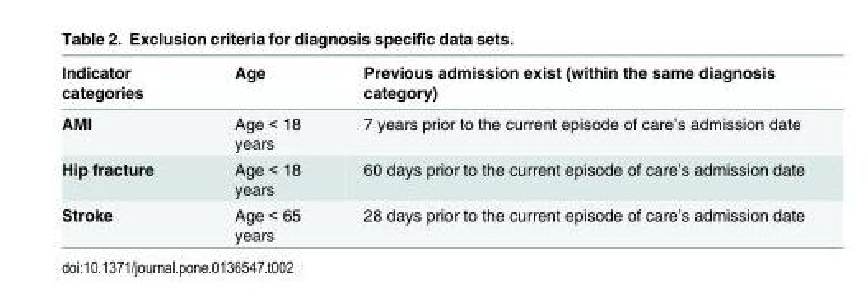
<table><thead><tr><td>Indicator categories</td><td>Age</td><td>Previous admission exist (within the same diagnosis category)</td></tr></thead><tbody><tr><td>AMI</td><td>Age &lt; 18 years</td><td>7 years prior to the current episode of care’s admission date</td></tr><tr><td>Hip fracture</td><td>Age &lt; 18 years</td><td>60 days prior to the current episode of care’s admission date</td></tr><tr><td>Stroke</td><td>Age &lt; 65 years</td><td>28 days prior to the current episode of care’s admission date</td></tr></tbody></table>